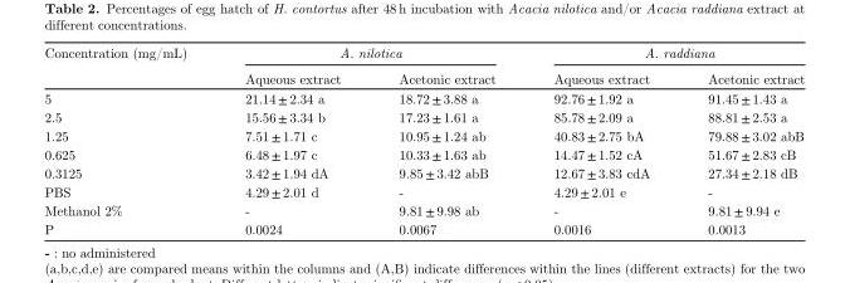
<table><thead><tr><td rowspan="2">Concentration (mg/mL)</td><td colspan="2">A. nilotica</td><td colspan="2">A. raddiana</td></tr><tr><td>Aqueous extract</td><td>Acetonic extract</td><td>Aqueous extract</td><td>Acetonic extract</td></tr></thead><tbody><tr><td>5</td><td>21.14 ± 2.34 a</td><td>18.72 ± 3.88 a</td><td>92.76 ± 1.92 a</td><td>91.45 ± 1.43 a</td></tr><tr><td>2.5</td><td>15.56 ± 3.34 b</td><td>17.23 ± 1.61 a</td><td>85.78 ± 2.09 a</td><td>88.81 ± 2.53 a</td></tr><tr><td>1.25</td><td>7.51 ± 1.71 c</td><td>10.95 ± 1.24 ab</td><td>40.83 ± 2.75 bA</td><td>79.88 ± 3.02 abB</td></tr><tr><td>0.625</td><td>6.48 ± 1.97 c</td><td>10.33 ± 1.63 ab</td><td>14.47 ± 1.52 cA</td><td>51.67 ± 2.83 cB</td></tr><tr><td>0.3125</td><td>3.42 ± 1.94 dA</td><td>9.85 ± 3.42 abB</td><td>12.67 ± 3.83 cdA</td><td>27.34 ± 2.18 dB</td></tr><tr><td>PBS</td><td>4.29 ± 2.01 d</td><td>-</td><td>4.29 ± 2.01 e</td><td>-</td></tr><tr><td>Methanol 2%</td><td>-</td><td>9.81 ± 9.98 ab</td><td>-</td><td>9.81 ± 9.94 e</td></tr><tr><td>P</td><td>0.0024</td><td>0.0067</td><td>0.0016</td><td>0.0013</td></tr></tbody></table>